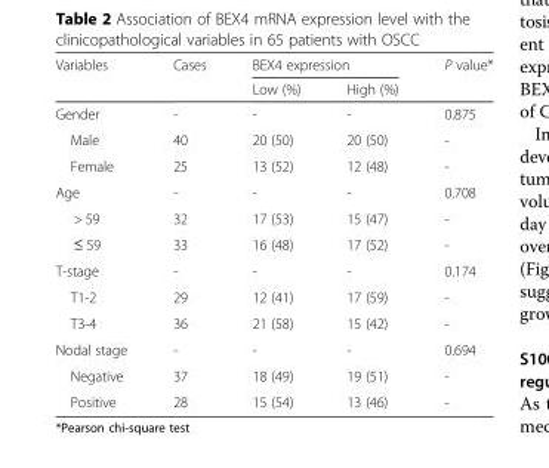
<table><thead><tr><td rowspan="2">Variables</td><td rowspan="2">Cases</td><td colspan="2">BEX4 expression</td><td rowspan="2">P value*</td></tr><tr><td>Low (%)</td><td>High (%)</td></tr></thead><tbody><tr><td>Gender</td><td>-</td><td>-</td><td>-</td><td>0.875</td></tr><tr><td>Male</td><td>40</td><td>20 (50)</td><td>20 (50)</td><td>-</td></tr><tr><td>Female</td><td>25</td><td>13 (52)</td><td>12 (48)</td><td>-</td></tr><tr><td>Age</td><td>-</td><td>-</td><td>-</td><td>0.708</td></tr><tr><td>&gt; 59</td><td>32</td><td>17 (53)</td><td>15 (47)</td><td>-</td></tr><tr><td>≤ 59</td><td>33</td><td>16 (48)</td><td>17 (52)</td><td>-</td></tr><tr><td>T-stage</td><td>-</td><td>-</td><td>-</td><td>0.174</td></tr><tr><td>T1-2</td><td>29</td><td>12 (41)</td><td>17 (59)</td><td>-</td></tr><tr><td>T3-4</td><td>36</td><td>21 (58)</td><td>15 (42)</td><td>-</td></tr><tr><td>Nodal stage</td><td>-</td><td>-</td><td>-</td><td>0.694</td></tr><tr><td>Negative</td><td>37</td><td>18 (49)</td><td>19 (51)</td><td>-</td></tr><tr><td>Positive</td><td>28</td><td>15 (54)</td><td>13 (46)</td><td>-</td></tr></tbody></table>